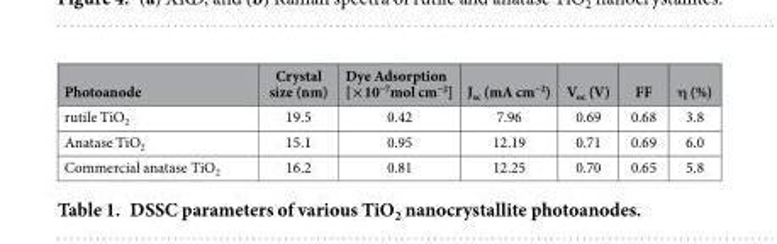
<table><thead><tr><td>Photoanode</td><td>Crystal size (nm)</td><td>Dye Adsorption [×10<sup>−7</sup>mol cm<sup>−2</sup>]</td><td>J<sub>sc</sub> (mA cm<sup>−2</sup>)</td><td>V<sub>oc</sub> (V)</td><td>FF</td><td>η (%)</td></tr></thead><tbody><tr><td>rutile TiO<sub>2</sub></td><td>19.5</td><td>0.42</td><td>7.96</td><td>0.69</td><td>0.68</td><td>3.8</td></tr><tr><td>Anatase TiO<sub>2</sub></td><td>15.1</td><td>0.95</td><td>12.19</td><td>0.71</td><td>0.69</td><td>6.0</td></tr><tr><td>Commercial anatase TiO<sub>2</sub></td><td>16.2</td><td>0.81</td><td>12.25</td><td>0.70</td><td>0.65</td><td>5.8</td></tr></tbody></table>